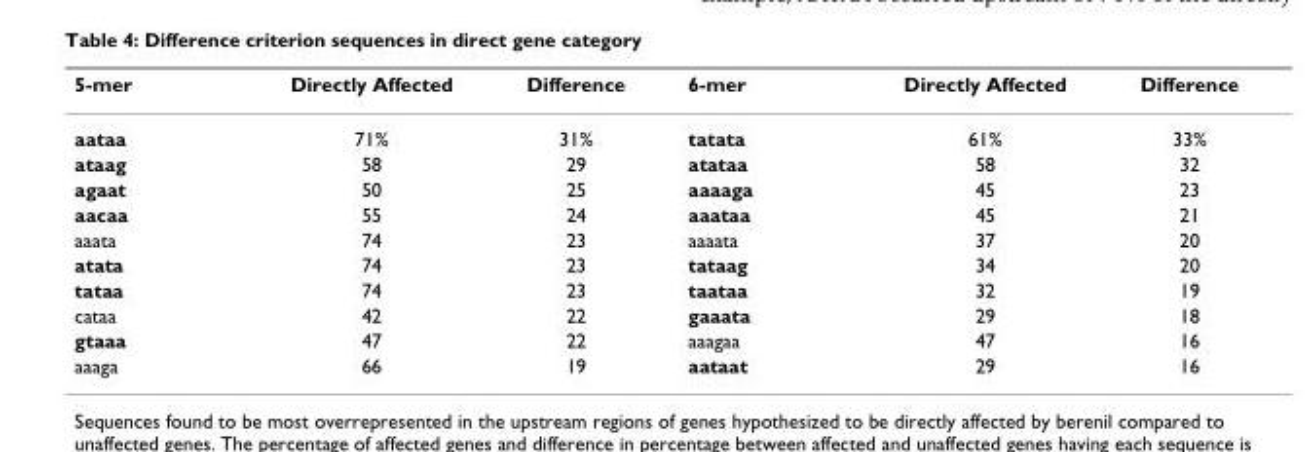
<table><thead><tr><td>5-mer</td><td>Directly Affected</td><td>Difference</td><td>6-mer</td><td>Directly Affected</td><td>Difference</td></tr></thead><tbody><tr><td>aataa</td><td>71%</td><td>31%</td><td>tatata</td><td>61%</td><td>33%</td></tr><tr><td>ataag</td><td>58</td><td>29</td><td>atataa</td><td>58</td><td>32</td></tr><tr><td>agaat</td><td>50</td><td>25</td><td>aaaaga</td><td>45</td><td>23</td></tr><tr><td>aacaa</td><td>55</td><td>24</td><td>aaataa</td><td>45</td><td>21</td></tr><tr><td>aaata</td><td>74</td><td>23</td><td>aaaata</td><td>37</td><td>20</td></tr><tr><td>atata</td><td>74</td><td>23</td><td>tataag</td><td>34</td><td>20</td></tr><tr><td>tataa</td><td>74</td><td>23</td><td>taataa</td><td>32</td><td>19</td></tr><tr><td>cataa</td><td>42</td><td>22</td><td>gaaata</td><td>29</td><td>18</td></tr><tr><td>gtaaa</td><td>47</td><td>22</td><td>aaagaa</td><td>47</td><td>16</td></tr><tr><td>aaaga</td><td>66</td><td>19</td><td>aataat</td><td>29</td><td>16</td></tr></tbody></table>